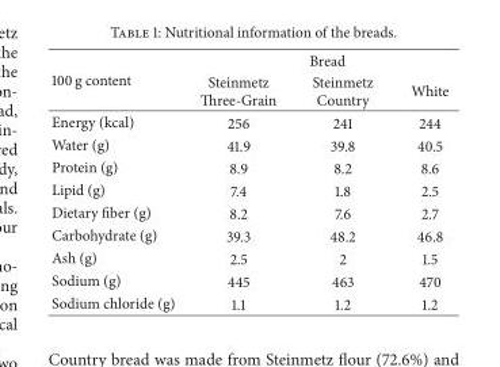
<table><thead><tr><td rowspan="2">100 g content</td><td colspan="3">Bread</td></tr><tr><td>Steinmetz Three-Grain</td><td>Steinmetz Country</td><td>White</td></tr></thead><tbody><tr><td>Energy (kcal)</td><td>256</td><td>241</td><td>244</td></tr><tr><td>Water (g)</td><td>41.9</td><td>39.8</td><td>40.5</td></tr><tr><td>Protein (g)</td><td>8.9</td><td>8.2</td><td>8.6</td></tr><tr><td>Lipid (g)</td><td>7.4</td><td>1.8</td><td>2.5</td></tr><tr><td>Dietary fiber (g)</td><td>8.2</td><td>7.6</td><td>2.7</td></tr><tr><td>Carbohydrate (g)</td><td>39.3</td><td>48.2</td><td>46.8</td></tr><tr><td>Ash (g)</td><td>2.5</td><td>2</td><td>1.5</td></tr><tr><td>Sodium (g)</td><td>445</td><td>463</td><td>470</td></tr><tr><td>Sodium chloride (g)</td><td>1.1</td><td>1.2</td><td>1.2</td></tr></tbody></table>